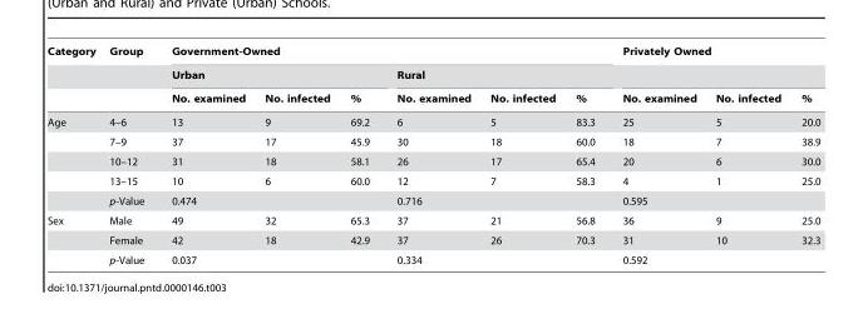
<table><thead><tr><td rowspan="3">Category</td><td rowspan="3">Group</td><td colspan="6">Government-Owned</td><td colspan="3">Privately Owned</td></tr><tr><td colspan="3">Urban</td><td colspan="3">Rural</td><td rowspan="2">No. examined</td><td rowspan="2">No. infected</td><td rowspan="2">%</td></tr><tr><td>No. examined</td><td>No. infected</td><td>%</td><td>No. examined</td><td>No. infected</td><td>%</td></tr></thead><tbody><tr><td rowspan="5">Age</td><td>4–6</td><td>13</td><td>9</td><td>69.2</td><td>6</td><td>5</td><td>83.3</td><td>25</td><td>5</td><td>20.0</td></tr><tr><td>7–9</td><td>37</td><td>17</td><td>45.9</td><td>30</td><td>18</td><td>60.0</td><td>18</td><td>7</td><td>38.9</td></tr><tr><td>10–12</td><td>31</td><td>18</td><td>58.1</td><td>26</td><td>17</td><td>65.4</td><td>20</td><td>6</td><td>30.0</td></tr><tr><td>13–15</td><td>10</td><td>6</td><td>60.0</td><td>12</td><td>7</td><td>58.3</td><td>4</td><td>1</td><td>25.0</td></tr><tr><td>p-Value</td><td colspan="3">0.474</td><td colspan="3">0.716</td><td colspan="3">0.595</td></tr><tr><td rowspan="3">Sex</td><td>Male</td><td>49</td><td>32</td><td>65.3</td><td>37</td><td>21</td><td>56.8</td><td>36</td><td>9</td><td>25.0</td></tr><tr><td>Female</td><td>42</td><td>18</td><td>42.9</td><td>37</td><td>26</td><td>70.3</td><td>31</td><td>10</td><td>32.3</td></tr><tr><td>p-Value</td><td colspan="3">0.037</td><td colspan="3">0.334</td><td colspan="3">0.592</td></tr></tbody></table>